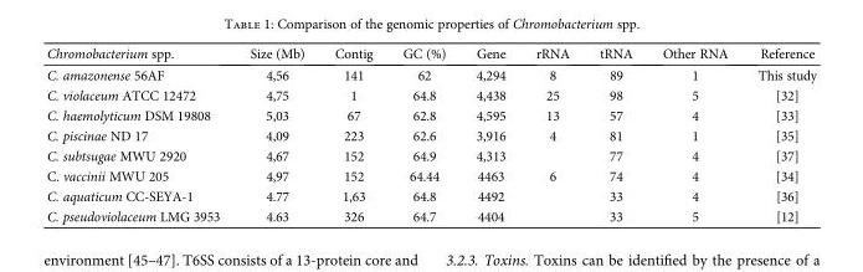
<table><thead><tr><td>Chromobacterium spp.</td><td>Size (Mb)</td><td>Contig</td><td>GC (%)</td><td>Gene</td><td>rRNA</td><td>tRNA</td><td>Other RNA</td><td>Reference</td></tr></thead><tbody><tr><td>C. amazonense 56AF</td><td>4,56</td><td>141</td><td>62</td><td>4,294</td><td>8</td><td>89</td><td>1</td><td>This study</td></tr><tr><td>C. violaceum ATCC 12472</td><td>4,75</td><td>1</td><td>64.8</td><td>4,438</td><td>25</td><td>98</td><td>5</td><td>[32]</td></tr><tr><td>C. haemolyticum DSM 19808</td><td>5,03</td><td>67</td><td>62.8</td><td>4,595</td><td>13</td><td>57</td><td>4</td><td>[33]</td></tr><tr><td>C. piscinae ND 17</td><td>4,09</td><td>223</td><td>62.6</td><td>3,916</td><td>4</td><td>81</td><td>1</td><td>[35]</td></tr><tr><td>C. subtsugae MWU 2920</td><td>4,67</td><td>152</td><td>64.9</td><td>4,313</td><td></td><td>77</td><td>4</td><td>[37]</td></tr><tr><td>C. vaccinii MWU 205</td><td>4,97</td><td>152</td><td>64.44</td><td>4463</td><td>6</td><td>74</td><td>4</td><td>[34]</td></tr><tr><td>C. aquaticum CC-SEYA-1</td><td>4.77</td><td>1,63</td><td>64.8</td><td>4492</td><td></td><td>33</td><td>4</td><td>[36]</td></tr><tr><td>C. pseudoviolaceum LMG 3953</td><td>4.63</td><td>326</td><td>64.7</td><td>4404</td><td></td><td>33</td><td>5</td><td>[12]</td></tr></tbody></table>